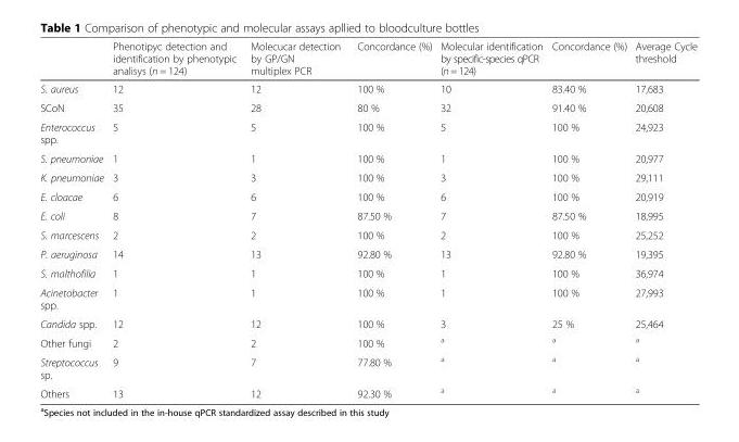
<table><thead><tr><td></td><td>Phenotipyc detection and identification by phenotypic analisys (n = 124)</td><td>Molecucar detection by GP/GN multiplex PCR</td><td>Concordance (%)</td><td>Molecular identification by specific-species qPCR (n = 124)</td><td>Concordance (%)</td><td>Average Cycle threshold</td></tr></thead><tbody><tr><td>S. aureus</td><td>12</td><td>12</td><td>100 %</td><td>10</td><td>83.40 %</td><td>17,683</td></tr><tr><td>SCoN</td><td>35</td><td>28</td><td>80 %</td><td>32</td><td>91.40 %</td><td>20,608</td></tr><tr><td>Enterococcus spp.</td><td>5</td><td>5</td><td>100 %</td><td>5</td><td>100 %</td><td>24,923</td></tr><tr><td>S. pneumoniae</td><td>1</td><td>1</td><td>100 %</td><td>1</td><td>100 %</td><td>20,977</td></tr><tr><td>K. pneumoniae</td><td>3</td><td>3</td><td>100 %</td><td>3</td><td>100 %</td><td>29,111</td></tr><tr><td>E. cloacae</td><td>6</td><td>6</td><td>100 %</td><td>6</td><td>100 %</td><td>20,919</td></tr><tr><td>E. coli</td><td>8</td><td>7</td><td>87.50 %</td><td>7</td><td>87.50 %</td><td>18,995</td></tr><tr><td>S. marcescens</td><td>2</td><td>2</td><td>100 %</td><td>2</td><td>100 %</td><td>25,252</td></tr><tr><td>P. aeruginosa</td><td>14</td><td>13</td><td>92.80 %</td><td>13</td><td>92.80 %</td><td>19,395</td></tr><tr><td>S. malthofilia</td><td>1</td><td>1</td><td>100 %</td><td>1</td><td>100 %</td><td>36,974</td></tr><tr><td>Acinetobacter spp.</td><td>1</td><td>1</td><td>100 %</td><td>1</td><td>100 %</td><td>27,993</td></tr><tr><td>Candida spp.</td><td>12</td><td>12</td><td>100 %</td><td>3</td><td>25 %</td><td>25,464</td></tr><tr><td>Other fungi</td><td>2</td><td>2</td><td>100 %</td><td><sup>a</sup></td><td><sup>a</sup></td><td><sup>a</sup></td></tr><tr><td>Streptococcus sp.</td><td>9</td><td>7</td><td>77.80 %</td><td><sup>a</sup></td><td><sup>a</sup></td><td><sup>a</sup></td></tr><tr><td>Others</td><td>13</td><td>12</td><td>92.30 %</td><td><sup>a</sup></td><td><sup>a</sup></td><td><sup>a</sup></td></tr></tbody></table>